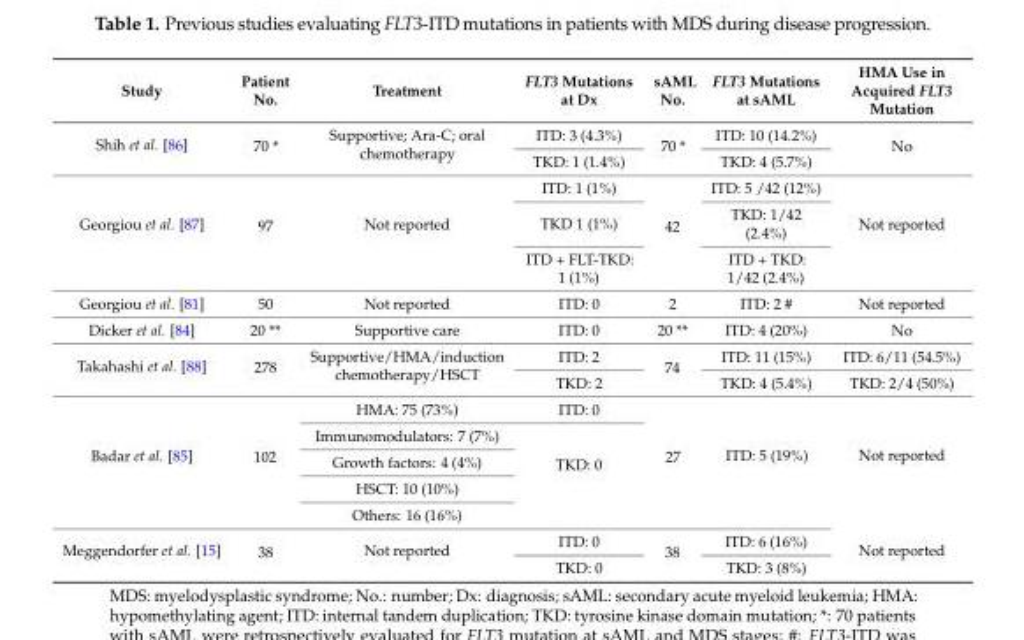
<table><thead><tr><td>Study</td><td>Patient No.</td><td>Treatment</td><td>FLT3 Mutations at Dx</td><td>sAML No.</td><td>FLT3 Mutations at sAML</td><td>HMA Use in Acquired FLT3 Mutation</td></tr></thead><tbody><tr><td rowspan="2">Shih et al. [86]</td><td rowspan="2">70 *</td><td rowspan="2">Supportive; Ara-C; oral chemotherapy</td><td>ITD: 3 (4.3%)</td><td rowspan="2">70 *</td><td>ITD: 10 (14.2%)</td><td rowspan="2">No</td></tr><tr><td>TKD: 1 (1.4%)</td><td>TKD: 4 (5.7%)</td></tr><tr><td rowspan="3">Georgiou et al. [87]</td><td rowspan="3">97</td><td rowspan="3">Not reported</td><td>ITD: 1 (1%)</td><td rowspan="3">42</td><td>ITD: 5 /42 (12%)</td><td rowspan="3">Not reported</td></tr><tr><td>TKD 1 (1%)</td><td>TKD: 1/42 (2.4%)</td></tr><tr><td>ITD + FLT-TKD: 1 (1%)</td><td>ITD + TKD: 1/42 (2.4%)</td></tr><tr><td>Georgiou et al. [81]</td><td>50</td><td>Not reported</td><td>ITD: 0</td><td>2</td><td>ITD: 2 #</td><td>Not reported</td></tr><tr><td>Dicker et al. [84]</td><td>20 **</td><td>Supportive care</td><td>ITD: 0</td><td>20 **</td><td>ITD: 4 (20%)</td><td>No</td></tr><tr><td rowspan="2">Takahashi et al. [88]</td><td rowspan="2">278</td><td rowspan="2">Supportive/HMA/induction chemotherapy/HSCT</td><td>ITD: 2</td><td rowspan="2">74</td><td>ITD: 11 (15%)</td><td>ITD: 6/11 (54.5%)</td></tr><tr><td>TKD: 2</td><td>TKD: 4 (5.4%)</td><td>TKD: 2/4 (50%)</td></tr><tr><td rowspan="5">Badar et al. [85]</td><td rowspan="5">102</td><td>HMA: 75 (73%)</td><td>ITD: 0</td><td rowspan="5">27</td><td rowspan="5">ITD: 5 (19%)</td><td rowspan="5">Not reported</td></tr><tr><td>Immunomodulators: 7 (7%)</td><td rowspan="4">TKD: 0</td></tr><tr><td>Growth factors: 4 (4%)</td></tr><tr><td>HSCT: 10 (10%)</td></tr><tr><td>Others: 16 (16%)</td></tr><tr><td rowspan="2">Meggendorfer et al. [15]</td><td rowspan="2">38</td><td rowspan="2">Not reported</td><td>ITD: 0</td><td rowspan="2">38</td><td>ITD: 6 (16%)</td><td rowspan="2">Not reported</td></tr><tr><td>TKD: 0</td><td>TKD: 3 (8%)</td></tr></tbody></table>